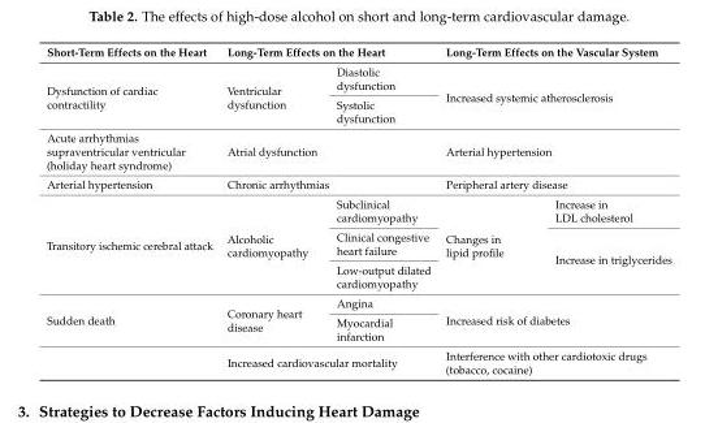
<table><thead><tr><td>Short-Term Effects on the Heart</td><td colspan="2">Long-Term Effects on the Heart</td><td colspan="2">Long-Term Effects on the Vascular System</td></tr></thead><tbody><tr><td rowspan="2">Dysfunction of cardiac contractility</td><td rowspan="2">Ventricular dysfunction</td><td>Diastolic dysfunction</td><td rowspan="2" colspan="2">Increased systemic atherosclerosis</td></tr><tr><td>Systolic dysfunction</td></tr><tr><td>Acute arrhythmias supraventricular ventricular (holiday heart syndrome)</td><td colspan="2">Atrial dysfunction</td><td colspan="2">Arterial hypertension</td></tr><tr><td>Arterial hypertension</td><td colspan="2">Chronic arrhythmias</td><td colspan="2">Peripheral artery disease</td></tr><tr><td rowspan="3">Transitory ischemic cerebral attack</td><td rowspan="3">Alcoholic cardiomyopathy</td><td>Subclinical cardiomyopathy</td><td rowspan="3">Changes in lipid profile</td><td>Increase in LDL cholesterol</td></tr><tr><td>Clinical congestive heart failure</td><td rowspan="2">Increase in triglycerides</td></tr><tr><td>Low-output dilated cardiomyopathy</td></tr><tr><td rowspan="3">Sudden death</td><td rowspan="2">Coronary heart disease</td><td>Angina</td><td rowspan="2" colspan="2">Increased risk of diabetes</td></tr><tr><td>Myocardial infarction</td></tr><tr><td colspan="2">Increased cardiovascular mortality</td><td colspan="2">Interference with other cardiotoxic drugs (tobacco, cocaine)</td></tr></tbody></table>